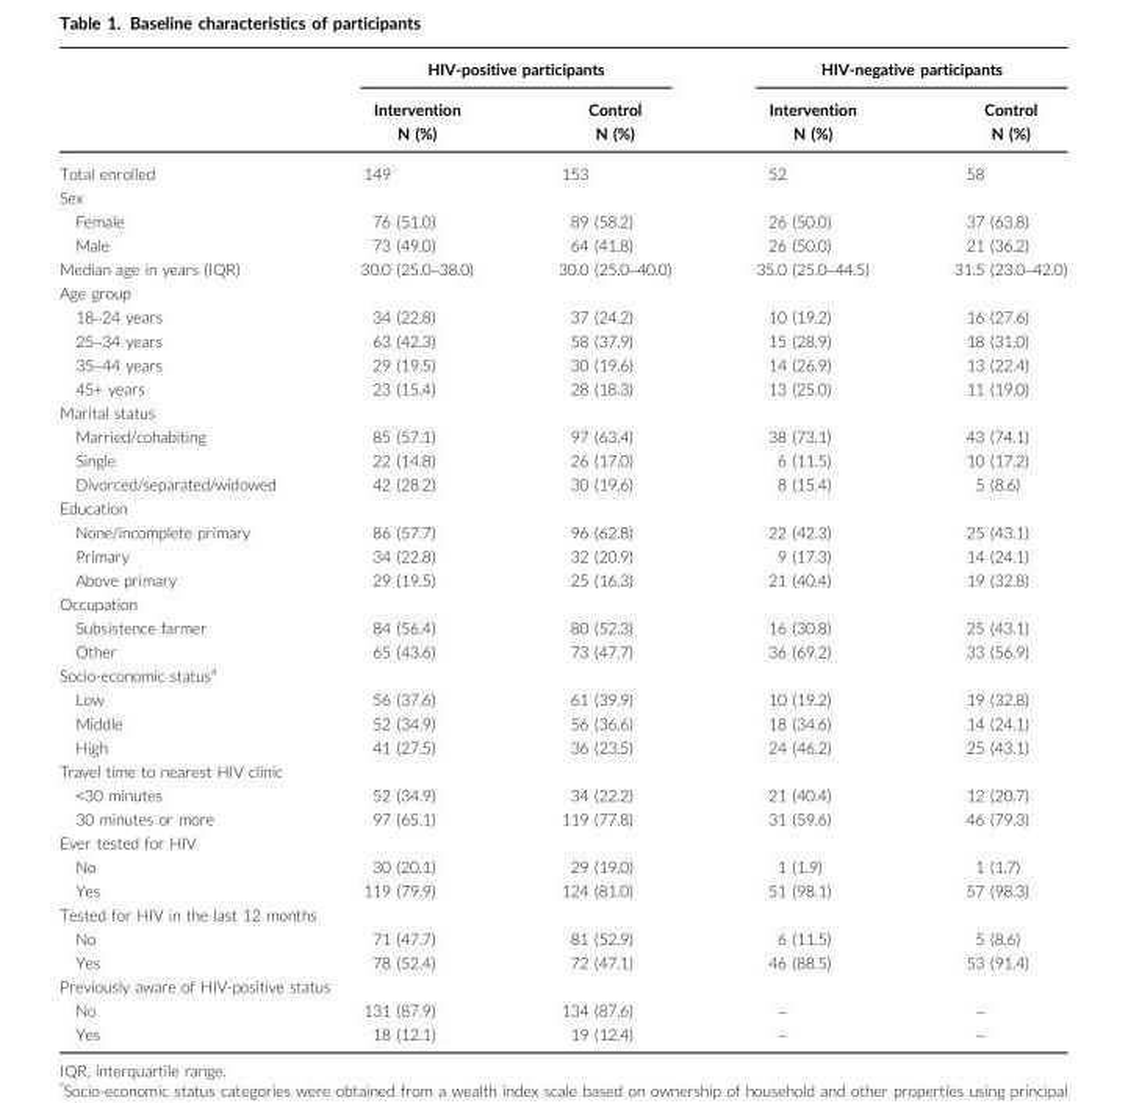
<table><thead><tr><td rowspan="3"></td><td colspan="2">HIV-positive participants</td><td colspan="2">HIV-negative participants</td></tr><tr><td rowspan="2">Intervention N (%)</td><td rowspan="2">Control N (%)</td><td rowspan="2">Intervention N (%)</td><td rowspan="2">Control N (%)</td></tr><tr></tr></thead><tbody><tr><td>Total enrolled</td><td>149</td><td>153</td><td>52</td><td>58</td></tr><tr><td colspan="5">Sex</td></tr><tr><td>Female</td><td>76 (51.0)</td><td>89 (58.2)</td><td>26 (50.0)</td><td>37 (63.8)</td></tr><tr><td>Male</td><td>73 (49.0)</td><td>64 (41.8)</td><td>26 (50.0)</td><td>21 (36.2)</td></tr><tr><td>Median age in years (IQR)</td><td>30.0 (25.0–38.0)</td><td>30.0 (25.0–40.0)</td><td>35.0 (25.0–44.5)</td><td>31.5 (23.0–42.0)</td></tr><tr><td colspan="5">Age group</td></tr><tr><td>18–24 years</td><td>34 (22.8)</td><td>37 (24.2)</td><td>10 (19.2)</td><td>16 (27.6)</td></tr><tr><td>25–34 years</td><td>63 (42.3)</td><td>58 (37.9)</td><td>15 (28.9)</td><td>18 (31.0)</td></tr><tr><td>35–44 years</td><td>29 (19.5)</td><td>30 (19.6)</td><td>14 (26.9)</td><td>13 (22.4)</td></tr><tr><td>45+ years</td><td>23 (15.4)</td><td>28 (18.3)</td><td>13 (25.0)</td><td>11 (19.0)</td></tr><tr><td colspan="5">Marital status</td></tr><tr><td>Married/cohabiting</td><td>85 (57.1)</td><td>97 (63.4)</td><td>38 (73.1)</td><td>43 (74.1)</td></tr><tr><td>Single</td><td>22 (14.8)</td><td>26 (17.0)</td><td>6 (11.5)</td><td>10 (17.2)</td></tr><tr><td>Divorced/separated/widowed</td><td>42 (28.2)</td><td>30 (19.6)</td><td>8 (15.4)</td><td>5 (8.6)</td></tr><tr><td colspan="5">Education</td></tr><tr><td>None/incomplete primary</td><td>86 (57.7)</td><td>96 (62.8)</td><td>22 (42.3)</td><td>25 (43.1)</td></tr><tr><td>Primary</td><td>34 (22.8)</td><td>32 (20.9)</td><td>9 (17.3)</td><td>14 (24.1)</td></tr><tr><td>Above primary</td><td>29 (19.5)</td><td>25 (16.3)</td><td>21 (40.4)</td><td>19 (32.8)</td></tr><tr><td colspan="5">Occupation</td></tr><tr><td>Subsistence farmer</td><td>84 (56.4)</td><td>80 (52.3)</td><td>16 (30.8)</td><td>25 (43.1)</td></tr><tr><td>Other</td><td>65 (43.6)</td><td>73 (47.7)</td><td>36 (69.2)</td><td>33 (56.9)</td></tr><tr><td colspan="5">Socio-economic status<sup>a</sup></td></tr><tr><td>Low</td><td>56 (37.6)</td><td>61 (39.9)</td><td>10 (19.2)</td><td>19 (32.8)</td></tr><tr><td>Middle</td><td>52 (34.9)</td><td>56 (36.6)</td><td>18 (34.6)</td><td>14 (24.1)</td></tr><tr><td>High</td><td>41 (27.5)</td><td>36 (23.5)</td><td>24 (46.2)</td><td>25 (43.1)</td></tr><tr><td colspan="5">Travel time to nearest HIV clinic</td></tr><tr><td>&lt;30 minutes</td><td>52 (34.9)</td><td>34 (22.2)</td><td>21 (40.4)</td><td>12 (20.7)</td></tr><tr><td>30 minutes or more</td><td>97 (65.1)</td><td>119 (77.8)</td><td>31 (59.6)</td><td>46 (79.3)</td></tr><tr><td colspan="5">Ever tested for HIV</td></tr><tr><td>No</td><td>30 (20.1)</td><td>29 (19.0)</td><td>1 (1.9)</td><td>1 (1.7)</td></tr><tr><td>Yes</td><td>119 (79.9)</td><td>124 (81.0)</td><td>51 (98.1)</td><td>57 (98.3)</td></tr><tr><td colspan="5">Tested for HIV in the last 12 months</td></tr><tr><td>No</td><td>71 (47.7)</td><td>81 (52.9)</td><td>6 (11.5)</td><td>5 (8.6)</td></tr><tr><td>Yes</td><td>78 (52.4)</td><td>72 (47.1)</td><td>46 (88.5)</td><td>53 (91.4)</td></tr><tr><td colspan="5">Previously aware of HIV-positive status</td></tr><tr><td>No</td><td>131 (87.9)</td><td>134 (87.6)</td><td>–</td><td>–</td></tr><tr><td>Yes</td><td>18 (12.1)</td><td>19 (12.4)</td><td>–</td><td>–</td></tr></tbody></table>